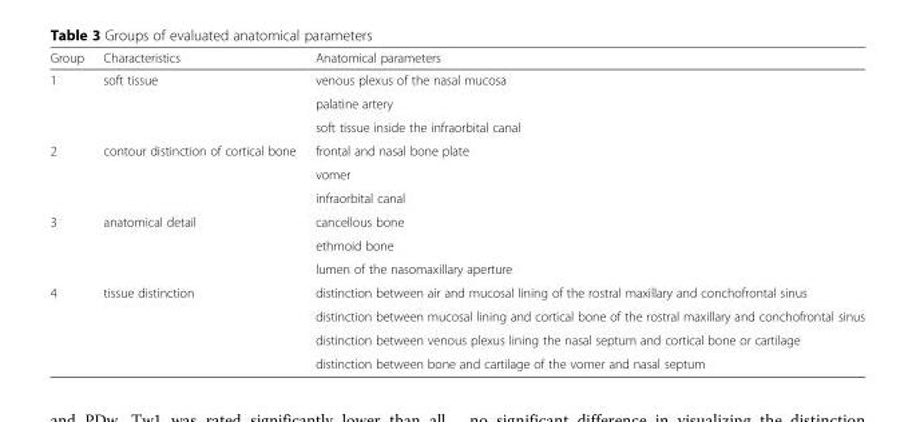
<table><thead><tr><td>Group</td><td>Characteristics</td><td>Anatomical parameters</td></tr></thead><tbody><tr><td rowspan="3">1</td><td rowspan="3">soft tissue</td><td>venous plexus of the nasal mucosa</td></tr><tr><td>palatine artery</td></tr><tr><td>soft tissue inside the infraorbital canal</td></tr><tr><td rowspan="3">2</td><td rowspan="3">contour distinction of cortical bone</td><td>frontal and nasal bone plate</td></tr><tr><td>vomer</td></tr><tr><td>infraorbital canal</td></tr><tr><td rowspan="3">3</td><td rowspan="3">anatomical detail</td><td>cancellous bone</td></tr><tr><td>ethmoid bone</td></tr><tr><td>lumen of the nasomaxillary aperture</td></tr><tr><td rowspan="4">4</td><td rowspan="4">tissue distinction</td><td>distinction between air and mucosal lining of the rostral maxillary and conchofrontal sinus</td></tr><tr><td>distinction between mucosal lining and cortical bone of the rostral maxillary and conchofrontal sinus</td></tr><tr><td>distinction between venous plexus lining the nasal septum and cortical bone or cartilage</td></tr><tr><td>distinction between bone and cartilage of the vomer and nasal septum</td></tr></tbody></table>